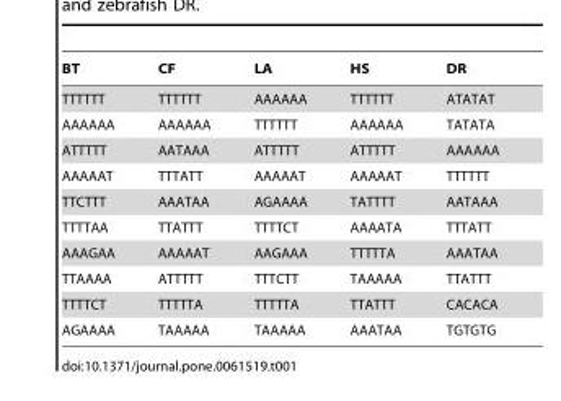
<table><thead><tr><td>BT</td><td>CF</td><td>LA</td><td>HS</td><td>DR</td></tr></thead><tbody><tr><td>TTTTTT</td><td>TTTTTT</td><td>AAAAAA</td><td>TTTTTT</td><td>ATATAT</td></tr><tr><td>AAAAAA</td><td>AAAAAA</td><td>TTTTTT</td><td>AAAAAA</td><td>TATATA</td></tr><tr><td>ATTTTT</td><td>AATAAA</td><td>ATTTTT</td><td>ATTTTT</td><td>AAAAAA</td></tr><tr><td>AAAAAT</td><td>TTTATT</td><td>AAAAAT</td><td>AAAAAT</td><td>TTTTTT</td></tr><tr><td>TTCTTT</td><td>AAATAA</td><td>AGAAAA</td><td>TATTTT</td><td>AATAAA</td></tr><tr><td>TTTTAA</td><td>TTATTT</td><td>TTTTCT</td><td>AAAATA</td><td>TTTATT</td></tr><tr><td>AAAGAA</td><td>AAAAAT</td><td>AAGAAA</td><td>TTTTTA</td><td>AAATAA</td></tr><tr><td>TTAAAA</td><td>ATTTTT</td><td>TTTCTT</td><td>TAAAAA</td><td>TTATTT</td></tr><tr><td>TTTTCT</td><td>TTTTTA</td><td>TTTTTA</td><td>TTATTT</td><td>CACACA</td></tr><tr><td>AGAAAA</td><td>TAAAAA</td><td>TAAAAA</td><td>AAATAA</td><td>TGTGTG</td></tr></tbody></table>